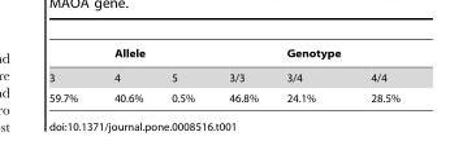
<table><thead><tr><td></td><td>Allele</td><td></td><td></td><td>Genotype</td><td></td></tr></thead><tbody><tr><td>3</td><td>4</td><td>5</td><td>3/3</td><td>3/4</td><td>4/4</td></tr><tr><td>59.7%</td><td>40.6%</td><td>0.5%</td><td>46.8%</td><td>24.1%</td><td>28.5%</td></tr></tbody></table>